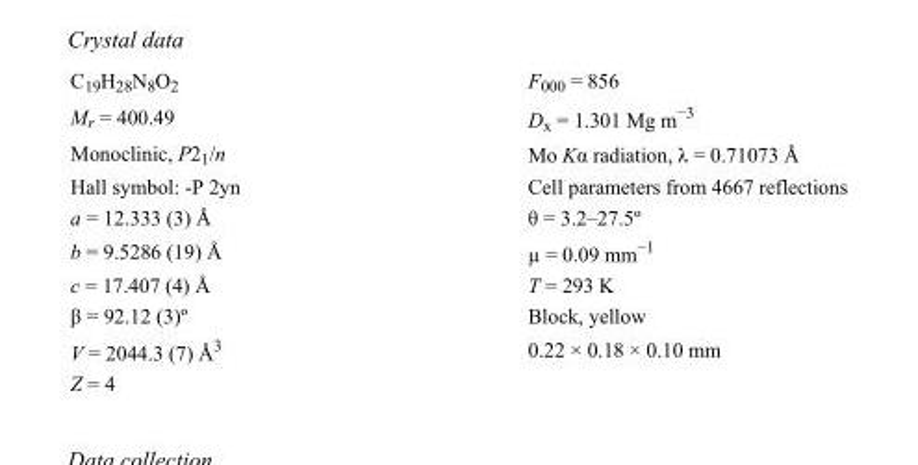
<table><tbody><tr><td>C<sub>19</sub>H<sub>28</sub>N<sub>8</sub>O<sub>2</sub></td><td>F000 = 856</td></tr><tr><td>M<sub>r</sub> = 400.49</td><td>D<sub>x</sub> = 1.301 Mg m<sup>−3</sup></td></tr><tr><td>Monoclinic, P2<sub>1</sub>/n</td><td>Mo Kα radiation, λ = 0.71073 Å</td></tr><tr><td>Hall symbol: -P 2yn</td><td>Cell parameters from 4667 reflections</td></tr><tr><td>a = 12.333 (3) Å</td><td>θ = 3.2–27.5º</td></tr><tr><td>b = 9.5286 (19) Å</td><td>µ = 0.09 mm<sup>−1</sup></td></tr><tr><td>c = 17.407 (4) Å</td><td>T = 293 K</td></tr><tr><td>β = 92.12 (3)º</td><td>Block, yellow</td></tr><tr><td>V = 2044.3 (7) Å<sup>3</sup></td><td>0.22 × 0.18 × 0.10 mm</td></tr><tr><td>Z = 4</td><td></td></tr></tbody></table>